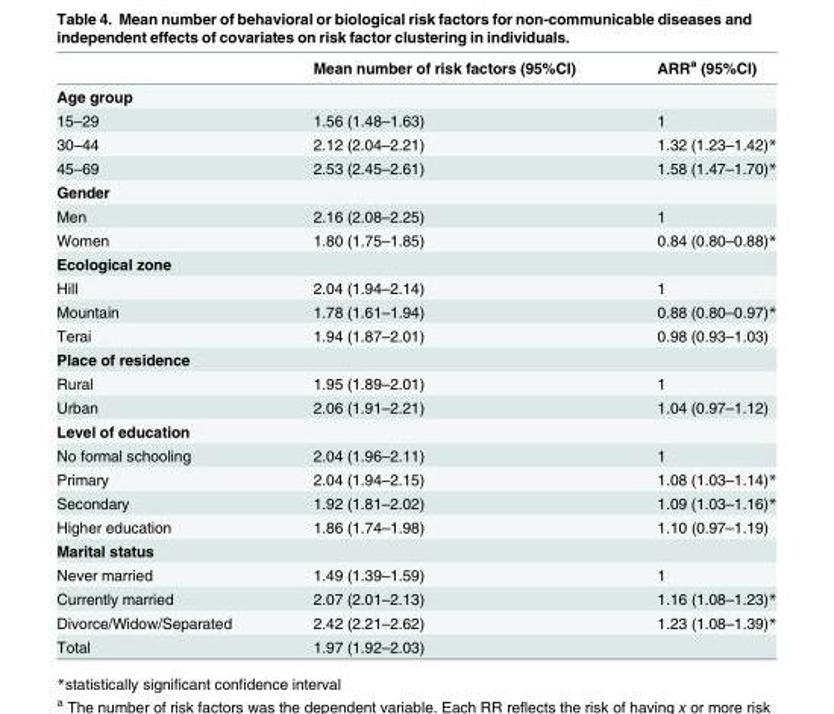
<table><thead><tr><td></td><td>Mean number of risk factors (95%CI)</td><td>ARR<sup>a</sup> (95%CI)</td></tr></thead><tbody><tr><td colspan="3">Age group</td></tr><tr><td>15–29</td><td>1.56 (1.48–1.63)</td><td>1</td></tr><tr><td>30–44</td><td>2.12 (2.04–2.21)</td><td>1.32 (1.23–1.42)*</td></tr><tr><td>45–69</td><td>2.53 (2.45–2.61)</td><td>1.58 (1.47–1.70)*</td></tr><tr><td colspan="3">Gender</td></tr><tr><td>Men</td><td>2.16 (2.08–2.25)</td><td>1</td></tr><tr><td>Women</td><td>1.80 (1.75–1.85)</td><td>0.84 (0.80–0.88)*</td></tr><tr><td colspan="3">Ecological zone</td></tr><tr><td>Hill</td><td>2.04 (1.94–2.14)</td><td>1</td></tr><tr><td>Mountain</td><td>1.78 (1.61–1.94)</td><td>0.88 (0.80–0.97)*</td></tr><tr><td>Terai</td><td>1.94 (1.87–2.01)</td><td>0.98 (0.93–1.03)</td></tr><tr><td colspan="3">Place of residence</td></tr><tr><td>Rural</td><td>1.95 (1.89–2.01)</td><td>1</td></tr><tr><td>Urban</td><td>2.06 (1.91–2.21)</td><td>1.04 (0.97–1.12)</td></tr><tr><td colspan="3">Level of education</td></tr><tr><td>No formal schooling</td><td>2.04 (1.96–2.11)</td><td>1</td></tr><tr><td>Primary</td><td>2.04 (1.94–2.15)</td><td>1.08 (1.03–1.14)*</td></tr><tr><td>Secondary</td><td>1.92 (1.81–2.02)</td><td>1.09 (1.03–1.16)*</td></tr><tr><td>Higher education</td><td>1.86 (1.74–1.98)</td><td>1.10 (0.97–1.19)</td></tr><tr><td colspan="3">Marital status</td></tr><tr><td>Never married</td><td>1.49 (1.39–1.59)</td><td>1</td></tr><tr><td>Currently married</td><td>2.07 (2.01–2.13)</td><td>1.16 (1.08–1.23)*</td></tr><tr><td>Divorce/Widow/Separated</td><td>2.42 (2.21–2.62)</td><td>1.23 (1.08–1.39)*</td></tr><tr><td>Total</td><td>1.97 (1.92–2.03)</td><td></td></tr></tbody></table>